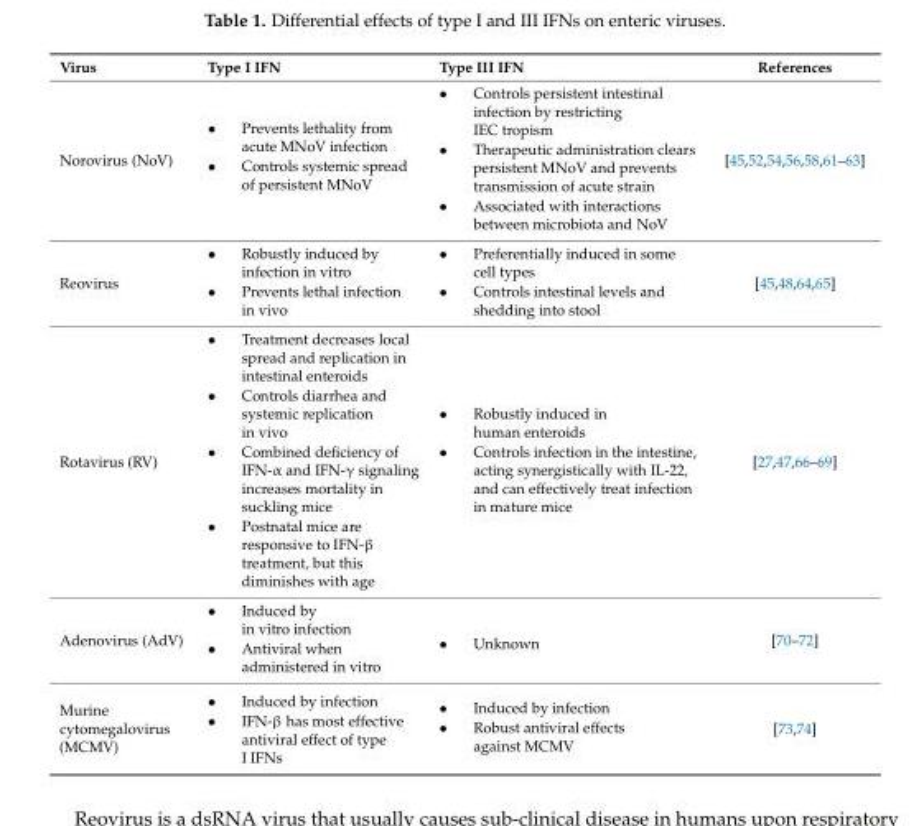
<table><thead><tr><td>Virus</td><td>Type I IFN</td><td>Type III IFN</td><td>References</td></tr></thead><tbody><tr><td>Norovirus (NoV)</td><td>• Prevents lethality from acute MNoV infection • Controls systemic spread of persistent MNoV</td><td>• Controls persistent intestinal infection by restricting IEC tropism • Therapeutic administration clears persistent MNoV and prevents transmission of acute strain • Associated with interactions between microbiota and NoV</td><td>[45,52,54,56,58,61–63]</td></tr><tr><td>Reovirus</td><td>• Robustly induced by infection in vitro • Prevents lethal infection in vivo</td><td>• Preferentially induced in some cell types • Controls intestinal levels and shedding into stool</td><td>[45,48,64,65]</td></tr><tr><td>Rotavirus (RV)</td><td>• Treatment decreases local spread and replication in intestinal enteroids • Controls diarrhea and systemic replication in vivo • Combined deficiency of IFN-α and IFN-γ signaling increases mortality in suckling mice • Postnatal mice are responsive to IFN-β treatment, but this diminishes with age</td><td>• Robustly induced in human enteroids • Controls infection in the intestine, acting synergistically with IL-22, and can effectively treat infection in mature mice</td><td>[27,47,66–69]</td></tr><tr><td>Adenovirus (AdV)</td><td>• Induced by in vitro infection • Antiviral when administered in vitro</td><td>• Unknown</td><td>[70–72]</td></tr><tr><td>Murine cytomegalovirus (MCMV)</td><td>• Induced by infection • IFN-β has most effective antiviral effect of type I IFNs</td><td>• Induced by infection • Robust antiviral effects against MCMV</td><td>[73,74]</td></tr></tbody></table>